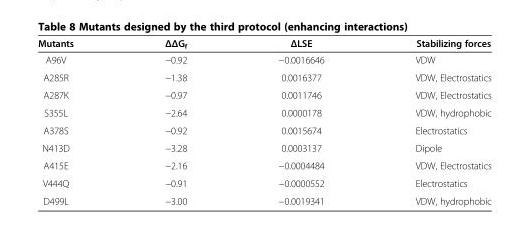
<table><thead><tr><td>Mutants</td><td>ΔΔG<sub>f</sub></td><td>ΔLSE</td><td>Stabilizing forces</td></tr></thead><tbody><tr><td>A96V</td><td>−0.92</td><td>−0.0016646</td><td>VDW</td></tr><tr><td>A285R</td><td>−1.38</td><td>0.0016377</td><td>VDW, Electrostatics</td></tr><tr><td>A287K</td><td>−0.97</td><td>0.0011746</td><td>VDW, Electrostatics</td></tr><tr><td>S355L</td><td>−2.64</td><td>0.0000178</td><td>VDW, hydrophobic</td></tr><tr><td>A378S</td><td>−0.92</td><td>0.0015674</td><td>Electrostatics</td></tr><tr><td>N413D</td><td>−3.28</td><td>0.0003137</td><td>Dipole</td></tr><tr><td>A415E</td><td>−2.16</td><td>−0.0004484</td><td>VDW, Electrostatics</td></tr><tr><td>V444Q</td><td>−0.91</td><td>−0.0000552</td><td>Electrostatics</td></tr><tr><td>D499L</td><td>−3.00</td><td>−0.0019341</td><td>VDW, hydrophobic</td></tr></tbody></table>